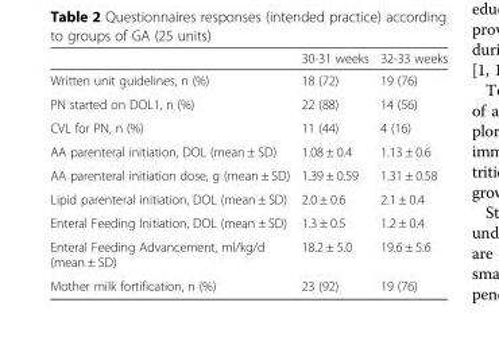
<table><thead><tr><td></td><td>30-31 weeks</td><td>32-33 weeks</td></tr></thead><tbody><tr><td>Written unit guidelines, n (%)</td><td>18 (72)</td><td>19 (76)</td></tr><tr><td>PN started on DOL1, n (%)</td><td>22 (88)</td><td>14 (56)</td></tr><tr><td>CVL for PN, n (%)</td><td>11 (44)</td><td>4 (16)</td></tr><tr><td>AA parenteral initiation, DOL (mean ± SD)</td><td>1.08 ± 0.4</td><td>1.13 ± 0.6</td></tr><tr><td>AA parenteral initiation dose, g (mean ± SD)</td><td>1.39 ± 0.59</td><td>1.31 ± 0.58</td></tr><tr><td>Lipid parenteral initiation, DOL (mean ± SD)</td><td>2.0 ± 0.6</td><td>2.1 ± 0.4</td></tr><tr><td>Enteral Feeding Initiation, DOL (mean ± SD)</td><td>1.3 ± 0.5</td><td>1.2 ± 0.4</td></tr><tr><td>Enteral Feeding Advancement, ml/kg/d (mean ± SD)</td><td>18.2 ± 5.0</td><td>19.6 ± 5.6</td></tr><tr><td>Mother milk fortification, n (%)</td><td>23 (92)</td><td>19 (76)</td></tr></tbody></table>